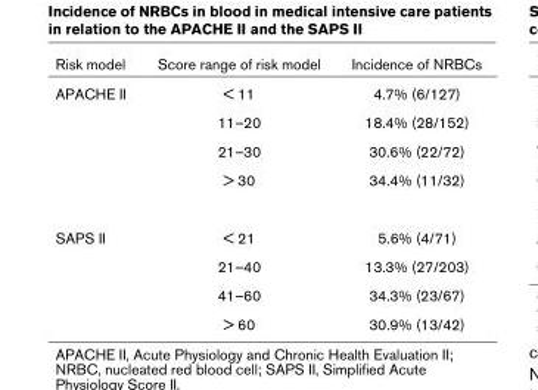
<table><thead><tr><td>Risk model</td><td>Score range of risk model</td><td>Incidence of NRBCs</td></tr></thead><tbody><tr><td rowspan="4">APACHE II</td><td>&lt; 11</td><td>4.7% (6/127)</td></tr><tr><td>11–20</td><td>18.4% (28/152)</td></tr><tr><td>21–30</td><td>30.6% (22/72)</td></tr><tr><td>&gt; 30</td><td>34.4% (11/32)</td></tr><tr><td rowspan="4">SAPS II</td><td>&lt; 21</td><td>5.6% (4/71)</td></tr><tr><td>21–40</td><td>13.3% (27/203)</td></tr><tr><td>41–60</td><td>34.3% (23/67)</td></tr><tr><td>&gt; 60</td><td>30.9% (13/42)</td></tr></tbody></table>